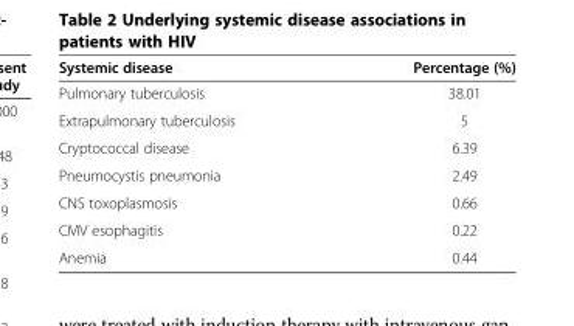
<table><thead><tr><td>Systemic disease</td><td>Percentage (%)</td></tr></thead><tbody><tr><td>Pulmonary tuberculosis</td><td>38.01</td></tr><tr><td>Extrapulmonary tuberculosis</td><td>5</td></tr><tr><td>Cryptococcal disease</td><td>6.39</td></tr><tr><td>Pneumocystis pneumonia</td><td>2.49</td></tr><tr><td>CNS toxoplasmosis</td><td>0.66</td></tr><tr><td>CMV esophagitis</td><td>0.22</td></tr><tr><td>Anemia</td><td>0.44</td></tr></tbody></table>